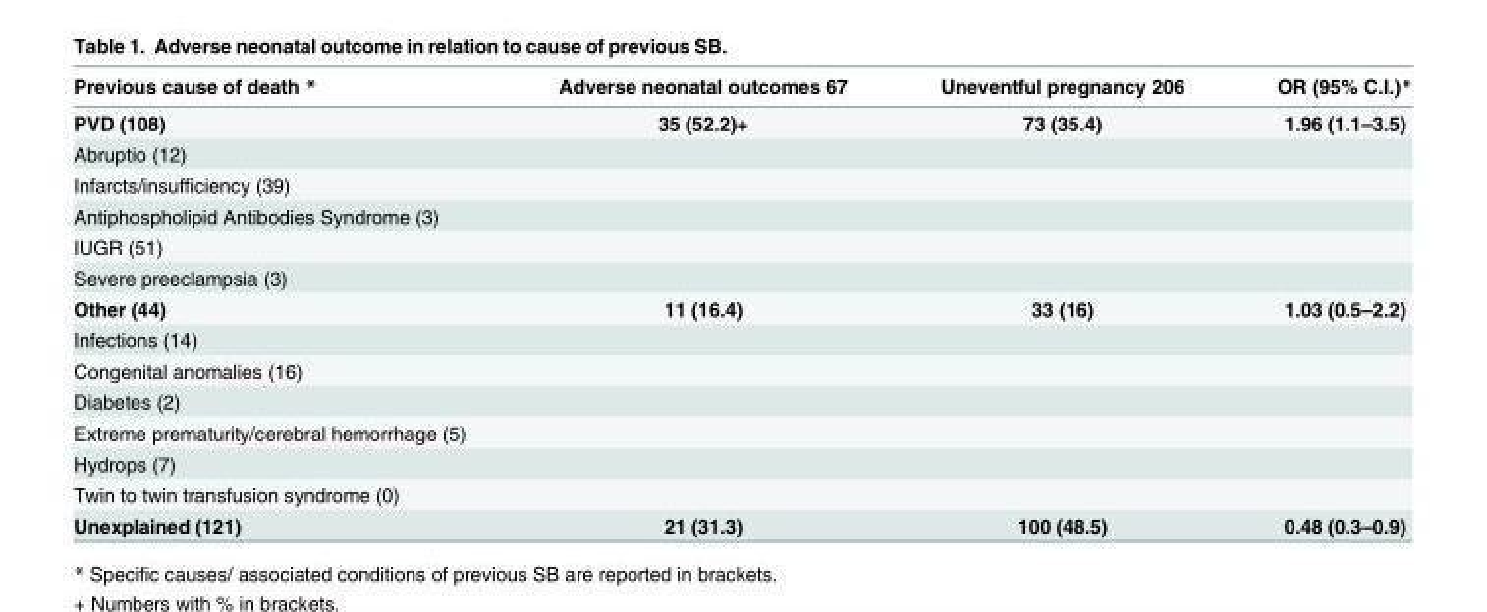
<table><thead><tr><td>Previous cause of death *</td><td>Adverse neonatal outcomes 67</td><td>Uneventful pregnancy 206</td><td>OR (95% C.I.)*</td></tr></thead><tbody><tr><td>PVD (108)</td><td>35 (52.2)+</td><td>73 (35.4)</td><td>1.96 (1.1–3.5)</td></tr><tr><td colspan="4">Abruptio (12)</td></tr><tr><td colspan="4">Infarcts/insufficiency (39)</td></tr><tr><td colspan="4">Antiphospholipid Antibodies Syndrome (3)</td></tr><tr><td colspan="4">IUGR (51)</td></tr><tr><td colspan="4">Severe preeclampsia (3)</td></tr><tr><td>Other (44)</td><td>11 (16.4)</td><td>33 (16)</td><td>1.03 (0.5–2.2)</td></tr><tr><td colspan="4">Infections (14)</td></tr><tr><td colspan="4">Congenital anomalies (16)</td></tr><tr><td colspan="4">Diabetes (2)</td></tr><tr><td colspan="4">Extreme prematurity/cerebral hemorrhage (5)</td></tr><tr><td colspan="4">Hydrops (7)</td></tr><tr><td colspan="4">Twin to twin transfusion syndrome (0)</td></tr><tr><td>Unexplained (121)</td><td>21 (31.3)</td><td>100 (48.5)</td><td>0.48 (0.3–0.9)</td></tr></tbody></table>